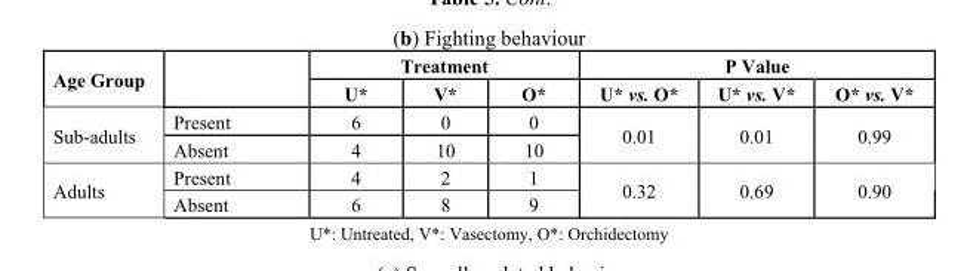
<table><thead><tr><td rowspan="2">Age Group</td><td rowspan="2"></td><td colspan="3">Treatment</td><td colspan="3">P Value</td></tr><tr><td>U*</td><td>V*</td><td>O*</td><td>U* vs. O*</td><td>U* vs. V*</td><td>O* vs. V*</td></tr></thead><tbody><tr><td rowspan="2">Sub-adults</td><td>Present</td><td>6</td><td>0</td><td>0</td><td rowspan="2">0.01</td><td rowspan="2">0.01</td><td rowspan="2">0.99</td></tr><tr><td>Absent</td><td>4</td><td>10</td><td>10</td></tr><tr><td rowspan="2">Adults</td><td>Present</td><td>4</td><td>2</td><td>1</td><td rowspan="2">0.32</td><td rowspan="2">0.69</td><td rowspan="2">0.90</td></tr><tr><td>Absent</td><td>6</td><td>8</td><td>9</td></tr></tbody></table>